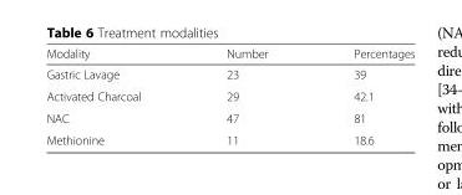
<table><thead><tr><td>Modality</td><td>Number</td><td>Percentages</td></tr></thead><tbody><tr><td>Gastric Lavage</td><td>23</td><td>39</td></tr><tr><td>Activated Charcoal</td><td>29</td><td>42.1</td></tr><tr><td>NAC</td><td>47</td><td>81</td></tr><tr><td>Methionine</td><td>11</td><td>18.6</td></tr></tbody></table>